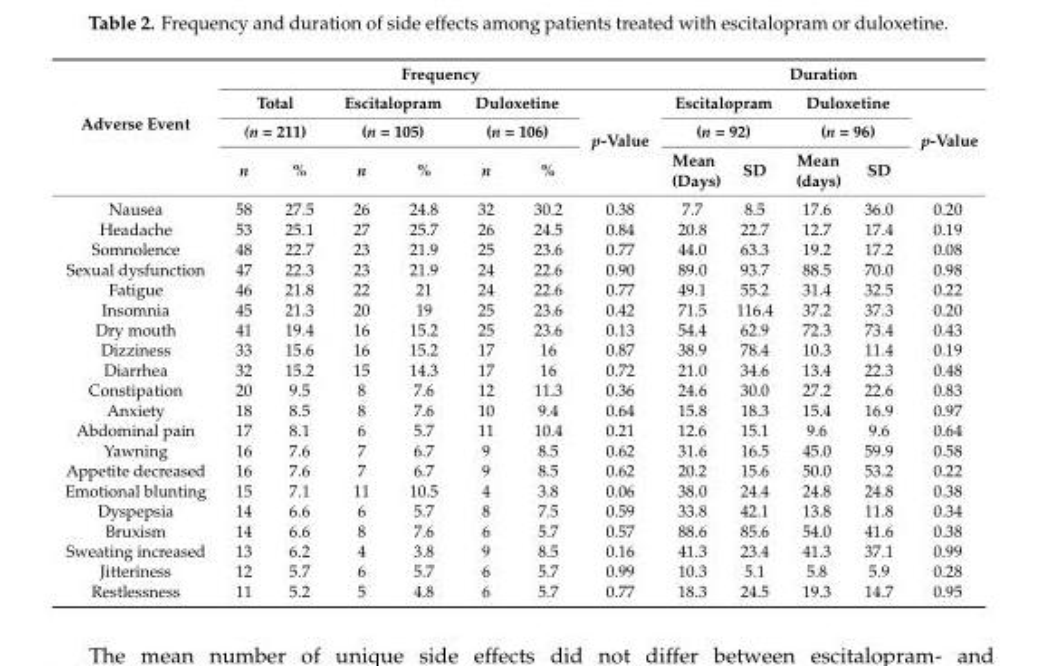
<table><thead><tr><td rowspan="4">Adverse Event</td><td colspan="7">Frequency</td><td colspan="5">Duration</td></tr><tr><td rowspan="2" colspan="2">Total (n = 211)</td><td rowspan="2" colspan="2">Escitalopram (n = 105)</td><td rowspan="2" colspan="2">Duloxetine (n = 106)</td><td rowspan="3">p-Value</td><td rowspan="2" colspan="2">Escitalopram (n = 92)</td><td rowspan="2" colspan="2">Duloxetine (n = 96)</td><td rowspan="3">p-Value</td></tr><tr></tr><tr><td>n</td><td>%</td><td>n</td><td>%</td><td>n</td><td>%</td><td>Mean (Days)</td><td>SD</td><td>Mean (days)</td><td>SD</td></tr></thead><tbody><tr><td>Nausea</td><td>58</td><td>27.5</td><td>26</td><td>24.8</td><td>32</td><td>30.2</td><td>0.38</td><td>7.7</td><td>8.5</td><td>17.6</td><td>36.0</td><td>0.20</td></tr><tr><td>Headache</td><td>53</td><td>25.1</td><td>27</td><td>25.7</td><td>26</td><td>24.5</td><td>0.84</td><td>20.8</td><td>22.7</td><td>12.7</td><td>17.4</td><td>0.19</td></tr><tr><td>Somnolence</td><td>48</td><td>22.7</td><td>23</td><td>21.9</td><td>25</td><td>23.6</td><td>0.77</td><td>44.0</td><td>63.3</td><td>19.2</td><td>17.2</td><td>0.08</td></tr><tr><td>Sexual dysfunction</td><td>47</td><td>22.3</td><td>23</td><td>21.9</td><td>24</td><td>22.6</td><td>0.90</td><td>89.0</td><td>93.7</td><td>88.5</td><td>70.0</td><td>0.98</td></tr><tr><td>Fatigue</td><td>46</td><td>21.8</td><td>22</td><td>21</td><td>24</td><td>22.6</td><td>0.77</td><td>49.1</td><td>55.2</td><td>31.4</td><td>32.5</td><td>0.22</td></tr><tr><td>Insomnia</td><td>45</td><td>21.3</td><td>20</td><td>19</td><td>25</td><td>23.6</td><td>0.42</td><td>71.5</td><td>116.4</td><td>37.2</td><td>37.3</td><td>0.20</td></tr><tr><td>Dry mouth</td><td>41</td><td>19.4</td><td>16</td><td>15.2</td><td>25</td><td>23.6</td><td>0.13</td><td>54.4</td><td>62.9</td><td>72.3</td><td>73.4</td><td>0.43</td></tr><tr><td>Dizziness</td><td>33</td><td>15.6</td><td>16</td><td>15.2</td><td>17</td><td>16</td><td>0.87</td><td>38.9</td><td>78.4</td><td>10.3</td><td>11.4</td><td>0.19</td></tr><tr><td>Diarrhea</td><td>32</td><td>15.2</td><td>15</td><td>14.3</td><td>17</td><td>16</td><td>0.72</td><td>21.0</td><td>34.6</td><td>13.4</td><td>22.3</td><td>0.48</td></tr><tr><td>Constipation</td><td>20</td><td>9.5</td><td>8</td><td>7.6</td><td>12</td><td>11.3</td><td>0.36</td><td>24.6</td><td>30.0</td><td>27.2</td><td>22.6</td><td>0.83</td></tr><tr><td>Anxiety</td><td>18</td><td>8.5</td><td>8</td><td>7.6</td><td>10</td><td>9.4</td><td>0.64</td><td>15.8</td><td>18.3</td><td>15.4</td><td>16.9</td><td>0.97</td></tr><tr><td>Abdominal pain</td><td>17</td><td>8.1</td><td>6</td><td>5.7</td><td>11</td><td>10.4</td><td>0.21</td><td>12.6</td><td>15.1</td><td>9.6</td><td>9.6</td><td>0.64</td></tr><tr><td>Yawning</td><td>16</td><td>7.6</td><td>7</td><td>6.7</td><td>9</td><td>8.5</td><td>0.62</td><td>31.6</td><td>16.5</td><td>45.0</td><td>59.9</td><td>0.58</td></tr><tr><td>Appetite decreased</td><td>16</td><td>7.6</td><td>7</td><td>6.7</td><td>9</td><td>8.5</td><td>0.62</td><td>20.2</td><td>15.6</td><td>50.0</td><td>53.2</td><td>0.22</td></tr><tr><td>Emotional blunting</td><td>15</td><td>7.1</td><td>11</td><td>10.5</td><td>4</td><td>3.8</td><td>0.06</td><td>38.0</td><td>24.4</td><td>24.8</td><td>24.8</td><td>0.38</td></tr><tr><td>Dyspepsia</td><td>14</td><td>6.6</td><td>6</td><td>5.7</td><td>8</td><td>7.5</td><td>0.59</td><td>33.8</td><td>42.1</td><td>13.8</td><td>11.8</td><td>0.34</td></tr><tr><td>Bruxism</td><td>14</td><td>6.6</td><td>8</td><td>7.6</td><td>6</td><td>5.7</td><td>0.57</td><td>88.6</td><td>85.6</td><td>54.0</td><td>41.6</td><td>0.38</td></tr><tr><td>Sweating increased</td><td>13</td><td>6.2</td><td>4</td><td>3.8</td><td>9</td><td>8.5</td><td>0.16</td><td>41.3</td><td>23.4</td><td>41.3</td><td>37.1</td><td>0.99</td></tr><tr><td>Jitteriness</td><td>12</td><td>5.7</td><td>6</td><td>5.7</td><td>6</td><td>5.7</td><td>0.99</td><td>10.3</td><td>5.1</td><td>5.8</td><td>5.9</td><td>0.28</td></tr><tr><td>Restlessness</td><td>11</td><td>5.2</td><td>5</td><td>4.8</td><td>6</td><td>5.7</td><td>0.77</td><td>18.3</td><td>24.5</td><td>19.3</td><td>14.7</td><td>0.95</td></tr></tbody></table>